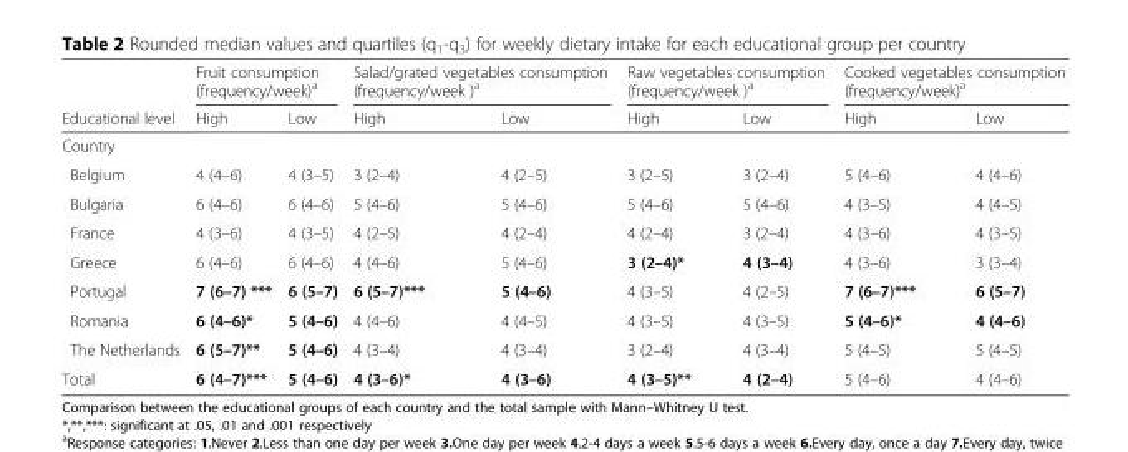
<table><thead><tr><td rowspan="2">Educational level</td><td colspan="2">Fruit consumption (frequency/week)<sup>a</sup></td><td colspan="2">Salad/grated vegetables consumption (frequency/week )<sup>a</sup></td><td colspan="2">Raw vegetables consumption (frequency/week )<sup>a</sup></td><td colspan="2">Cooked vegetables consumption (frequency/week)<sup>a</sup></td></tr><tr><td>High</td><td>Low</td><td>High</td><td>Low</td><td>High</td><td>Low</td><td>High</td><td>Low</td></tr></thead><tbody><tr><td colspan="9">Country</td></tr><tr><td>Belgium</td><td>4 (4–6)</td><td>4 (3–5)</td><td>3 (2–4)</td><td>4 (2–5)</td><td>3 (2–5)</td><td>3 (2–4)</td><td>5 (4–6)</td><td>4 (4–6)</td></tr><tr><td>Bulgaria</td><td>6 (4–6)</td><td>6 (4–6)</td><td>5 (4–6)</td><td>5 (4–6)</td><td>5 (4–6)</td><td>5 (4–6)</td><td>4 (3–5)</td><td>4 (4–5)</td></tr><tr><td>France</td><td>4 (3–6)</td><td>4 (3–5)</td><td>4 (2–5)</td><td>4 (2–4)</td><td>4 (2–4)</td><td>3 (2–4)</td><td>4 (3–6)</td><td>4 (3–5)</td></tr><tr><td>Greece</td><td>6 (4–6)</td><td>6 (4–6)</td><td>4 (4–6)</td><td>5 (4–6)</td><td>3 (2–4)*</td><td>4 (3–4)</td><td>4 (3–6)</td><td>3 (3–4)</td></tr><tr><td>Portugal</td><td>7 (6–7) ***</td><td>6 (5–7)</td><td>6 (5–7)***</td><td>5 (4–6)</td><td>4 (3–5)</td><td>4 (2–5)</td><td>7 (6–7)***</td><td>6 (5–7)</td></tr><tr><td>Romania</td><td>6 (4–6)*</td><td>5 (4–6)</td><td>4 (4–6)</td><td>4 (4–5)</td><td>4 (3–5)</td><td>4 (3–5)</td><td>5 (4–6)*</td><td>4 (4–6)</td></tr><tr><td>The Netherlands</td><td>6 (5–7)**</td><td>5 (4–6)</td><td>4 (3–4)</td><td>4 (3–4)</td><td>3 (2–4)</td><td>4 (3–4)</td><td>5 (4–5)</td><td>5 (4–5)</td></tr><tr><td>Total</td><td>6 (4–7)***</td><td>5 (4–6)</td><td>4 (3–6)*</td><td>4 (3–6)</td><td>4 (3–5)**</td><td>4 (2–4)</td><td>5 (4–6)</td><td>4 (4–6)</td></tr></tbody></table>